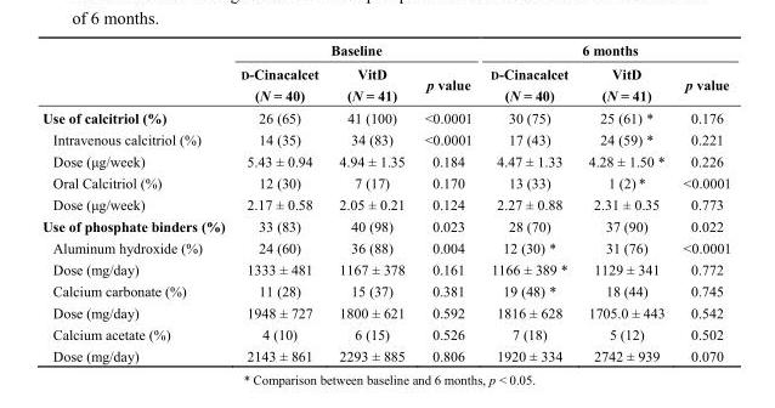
<table><thead><tr><td rowspan="2"></td><td colspan="3">Baseline</td><td colspan="3">6 months</td></tr><tr><td>D-Cinacalcet (N = 40)</td><td>VitD (N = 41)</td><td>p value</td><td>D-Cinacalcet (N = 40)</td><td>VitD (N = 41)</td><td>p value</td></tr></thead><tbody><tr><td>Use of calcitriol (%)</td><td>26 (65)</td><td>41 (100)</td><td>&lt;0.0001</td><td>30 (75)</td><td>25 (61) *</td><td>0.176</td></tr><tr><td>Intravenous calcitriol (%)</td><td>14 (35)</td><td>34 (83)</td><td>&lt;0.0001</td><td>17 (43)</td><td>24 (59) *</td><td>0.221</td></tr><tr><td>Dose (μg/week)</td><td>5.43 ± 0.94</td><td>4.94 ± 1.35</td><td>0.184</td><td>4.47 ± 1.33</td><td>4.28 ± 1.50 *</td><td>0.226</td></tr><tr><td>Oral Calcitriol (%)</td><td>12 (30)</td><td>7 (17)</td><td>0.170</td><td>13 (33)</td><td>1 (2) *</td><td>&lt;0.0001</td></tr><tr><td>Dose (μg/week)</td><td>2.17 ± 0.58</td><td>2.05 ± 0.21</td><td>0.124</td><td>2.27 ± 0.88</td><td>2.31 ± 0.35</td><td>0.773</td></tr><tr><td>Use of phosphate binders (%)</td><td>33 (83)</td><td>40 (98)</td><td>0.023</td><td>28 (70)</td><td>37 (90)</td><td>0.022</td></tr><tr><td>Aluminum hydroxide (%)</td><td>24 (60)</td><td>36 (88)</td><td>0.004</td><td>12 (30) *</td><td>31 (76)</td><td>&lt;0.0001</td></tr><tr><td>Dose (mg/day)</td><td>1333 ± 481</td><td>1167 ± 378</td><td>0.161</td><td>1166 ± 389 *</td><td>1129 ± 341</td><td>0.772</td></tr><tr><td>Calcium carbonate (%)</td><td>11 (28)</td><td>15 (37)</td><td>0.381</td><td>19 (48) *</td><td>18 (44)</td><td>0.745</td></tr><tr><td>Dose (mg/day)</td><td>1948 ± 727</td><td>1800 ± 621</td><td>0.592</td><td>1816 ± 628</td><td>1705.0 ± 443</td><td>0.542</td></tr><tr><td>Calcium acetate (%)</td><td>4 (10)</td><td>6 (15)</td><td>0.526</td><td>7 (18)</td><td>5 (12)</td><td>0.502</td></tr><tr><td>Dose (mg/day)</td><td>2143 ± 861</td><td>2293 ± 885</td><td>0.806</td><td>1920 ± 334</td><td>2742 ± 939</td><td>0.070</td></tr></tbody></table>